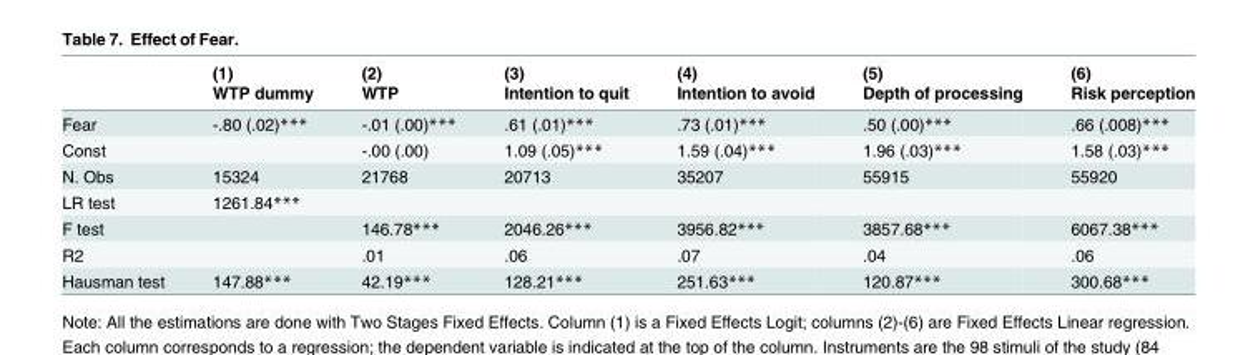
<table><thead><tr><td rowspan="2"></td><td rowspan="2">(1) WTP dummy</td><td rowspan="2">(2) WTP</td><td rowspan="2">(3) Intention to quit</td><td rowspan="2">(4) Intention to avoid</td><td rowspan="2">(5) Depth of processing</td><td rowspan="2">(6) Risk perception</td></tr><tr></tr></thead><tbody><tr><td>Fear</td><td>-.80 (.02)***</td><td>-.01 (.00)***</td><td>.61 (.01)***</td><td>.73 (.01)***</td><td>.50 (.00)***</td><td>.66 (.008)***</td></tr><tr><td>Const</td><td></td><td>-.00 (.00)</td><td>1.09 (.05)***</td><td>1.59 (.04)***</td><td>1.96 (.03)***</td><td>1.58 (.03)***</td></tr><tr><td>N. Obs</td><td>15324</td><td>21768</td><td>20713</td><td>35207</td><td>55915</td><td>55920</td></tr><tr><td>LR test</td><td>1261.84***</td><td></td><td></td><td></td><td></td><td></td></tr><tr><td>F test</td><td></td><td>146.78***</td><td>2046.26***</td><td>3956.82***</td><td>3857.68***</td><td>6067.38***</td></tr><tr><td>R2</td><td></td><td>.01</td><td>.06</td><td>.07</td><td>.04</td><td>.06</td></tr><tr><td>Hausman test</td><td>147.88***</td><td>42.19***</td><td>128.21***</td><td>251.63***</td><td>120.87***</td><td>300.68***</td></tr></tbody></table>